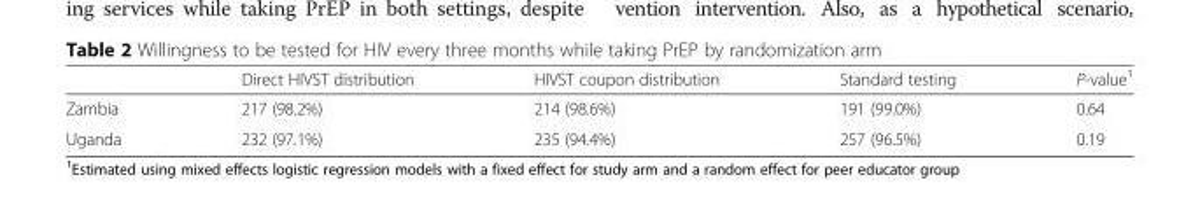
<table><thead><tr><td></td><td>Direct HIVST distribution</td><td>HIVST coupon distribution</td><td>Standard testing</td><td>P-value<sup>1</sup></td></tr></thead><tbody><tr><td>Zambia</td><td>217 (98.2%)</td><td>214 (98.6%)</td><td>191 (99.0%)</td><td>0.64</td></tr><tr><td>Uganda</td><td>232 (97.1%)</td><td>235 (94.4%)</td><td>257 (96.5%)</td><td>0.19</td></tr></tbody></table>